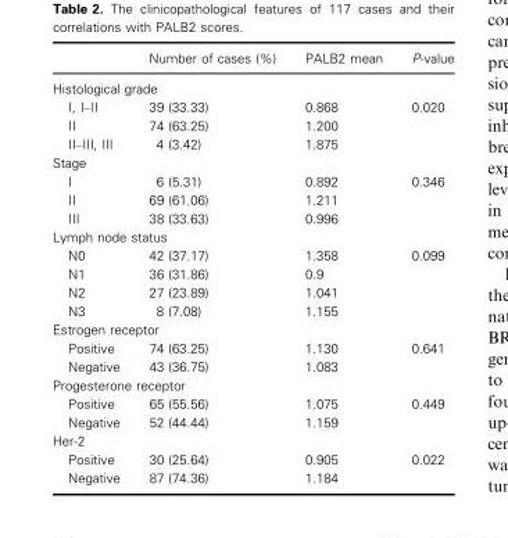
<table><thead><tr><td></td><td>Number of cases (%)</td><td>PALB2 mean</td><td>P-value</td></tr></thead><tbody><tr><td colspan="4">Histological grade</td></tr><tr><td>I, I–II</td><td>39 (33.33)</td><td>0.868</td><td rowspan="3">0.020</td></tr><tr><td>II</td><td>74 (63.25)</td><td>1.200</td></tr><tr><td>II–III, III</td><td>4 (3.42)</td><td>1.875</td></tr><tr><td colspan="4">Stage</td></tr><tr><td>I</td><td>6 (5.31)</td><td>0.892</td><td rowspan="3">0.346</td></tr><tr><td>II</td><td>69 (61.06)</td><td>1.211</td></tr><tr><td>III</td><td>38 (33.63)</td><td>0.996</td></tr><tr><td colspan="4">Lymph node status</td></tr><tr><td>N0</td><td>42 (37.17)</td><td>1.358</td><td rowspan="4">0.099</td></tr><tr><td>N1</td><td>36 (31.86)</td><td>0.9</td></tr><tr><td>N2</td><td>27 (23.89)</td><td>1.041</td></tr><tr><td>N3</td><td>8 (7.08)</td><td>1.155</td></tr><tr><td colspan="4">Estrogen receptor</td></tr><tr><td>Positive</td><td>74 (63.25)</td><td>1.130</td><td rowspan="2">0.641</td></tr><tr><td>Negative</td><td>43 (36.75)</td><td>1.083</td></tr><tr><td colspan="4">Progesterone receptor</td></tr><tr><td>Positive</td><td>65 (55.56)</td><td>1.075</td><td rowspan="2">0.449</td></tr><tr><td>Negative</td><td>52 (44.44)</td><td>1.159</td></tr><tr><td colspan="4">Her-2</td></tr><tr><td>Positive</td><td>30 (25.64)</td><td>0.905</td><td rowspan="2">0.022</td></tr><tr><td>Negative</td><td>87 (74.36)</td><td>1.184</td></tr></tbody></table>